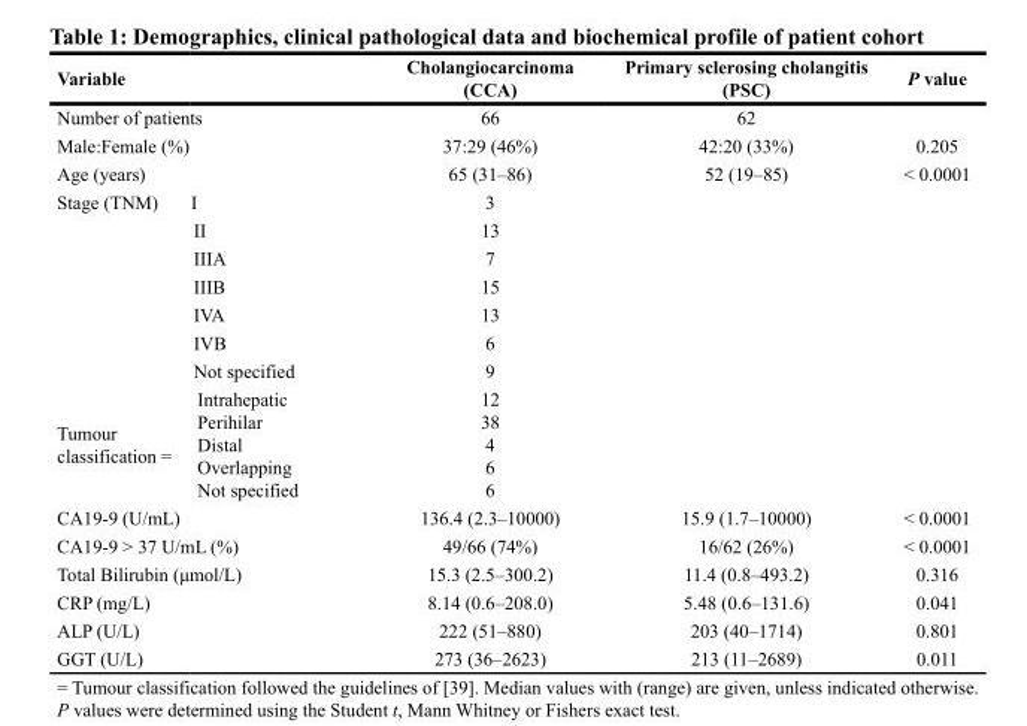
<table><thead><tr><td colspan="2">Variable</td><td>Cholangiocarcinoma (CCA)</td><td>Primary sclerosing cholangitis (PSC)</td><td>P value</td></tr></thead><tbody><tr><td colspan="2">Number of patients</td><td>66</td><td>62</td><td></td></tr><tr><td colspan="2">Male:Female (%)</td><td>37:29 (46%)</td><td>42:20 (33%)</td><td>0.205</td></tr><tr><td colspan="2">Age (years)</td><td>65 (31–86)</td><td>52 (19–85)</td><td>&lt; 0.0001</td></tr><tr><td rowspan="7">Stage (TNM)</td><td>I</td><td>3</td><td></td><td></td></tr><tr><td>II</td><td>13</td><td></td><td></td></tr><tr><td>IIIA</td><td>7</td><td></td><td></td></tr><tr><td>IIIB</td><td>15</td><td></td><td></td></tr><tr><td>IVA</td><td>13</td><td></td><td></td></tr><tr><td>IVB</td><td>6</td><td></td><td></td></tr><tr><td>Not specified</td><td>9</td><td></td><td></td></tr><tr><td rowspan="5">Tumour classification =</td><td>Intrahepatic</td><td>12</td><td rowspan="5"></td><td rowspan="5"></td></tr><tr><td>Perihilar</td><td>38</td></tr><tr><td>Distal</td><td>4</td></tr><tr><td>Overlapping</td><td>6</td></tr><tr><td>Not specified</td><td>6</td></tr><tr><td colspan="2">CA19-9 (U/mL)</td><td>136.4 (2.3–10000)</td><td>15.9 (1.7–10000)</td><td>&lt; 0.0001</td></tr><tr><td colspan="2">CA19-9 &gt; 37 U/mL (%)</td><td>49/66 (74%)</td><td>16/62 (26%)</td><td>&lt; 0.0001</td></tr><tr><td colspan="2">Total Bilirubin (μmol/L)</td><td>15.3 (2.5–300.2)</td><td>11.4 (0.8–493.2)</td><td>0.316</td></tr><tr><td colspan="2">CRP (mg/L)</td><td>8.14 (0.6–208.0)</td><td>5.48 (0.6–131.6)</td><td>0.041</td></tr><tr><td colspan="2">ALP (U/L)</td><td>222 (51–880)</td><td>203 (40–1714)</td><td>0.801</td></tr><tr><td colspan="2">GGT (U/L)</td><td>273 (36–2623)</td><td>213 (11–2689)</td><td>0.011</td></tr></tbody></table>